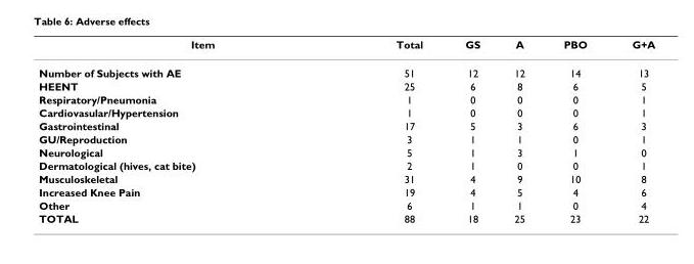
<table><thead><tr><td>Item</td><td>Total</td><td>GS</td><td>A</td><td>PBO</td><td>G+A</td></tr></thead><tbody><tr><td>Number of Subjects with AE</td><td>51</td><td>12</td><td>12</td><td>14</td><td>13</td></tr><tr><td>HEENT</td><td>25</td><td>6</td><td>8</td><td>6</td><td>5</td></tr><tr><td>Respiratory/Pneumonia</td><td>1</td><td>0</td><td>0</td><td>0</td><td>1</td></tr><tr><td>Cardiovasular/Hypertension</td><td>1</td><td>0</td><td>0</td><td>0</td><td>1</td></tr><tr><td>Gastrointestinal</td><td>17</td><td>5</td><td>3</td><td>6</td><td>3</td></tr><tr><td>GU/Reproduction</td><td>3</td><td>1</td><td>1</td><td>0</td><td>1</td></tr><tr><td>Neurological</td><td>5</td><td>1</td><td>3</td><td>1</td><td>0</td></tr><tr><td>Dermatological (hives, cat bite)</td><td>2</td><td>1</td><td>0</td><td>0</td><td>1</td></tr><tr><td>Musculoskeletal</td><td>31</td><td>4</td><td>9</td><td>10</td><td>8</td></tr><tr><td>Increased Knee Pain</td><td>19</td><td>4</td><td>5</td><td>4</td><td>6</td></tr><tr><td>Other</td><td>6</td><td>1</td><td>1</td><td>0</td><td>4</td></tr><tr><td>TOTAL</td><td>88</td><td>18</td><td>25</td><td>23</td><td>22</td></tr></tbody></table>